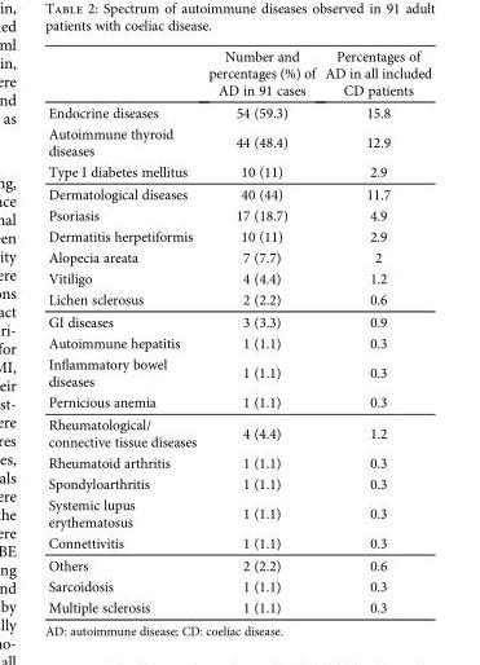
<table><thead><tr><td></td><td>Number and percentages (%) of AD in 91 cases</td><td>Percentages of AD in all included CD patients</td></tr></thead><tbody><tr><td>Endocrine diseases</td><td>54 (59.3)</td><td>15.8</td></tr><tr><td>Autoimmune thyroid diseases</td><td>44 (48.4)</td><td>12.9</td></tr><tr><td>Type I diabetes mellitus</td><td>10 (11)</td><td>2.9</td></tr><tr><td>Dermatological diseases</td><td>40 (44)</td><td>11.7</td></tr><tr><td>Psoriasis</td><td>17 (18.7)</td><td>4.9</td></tr><tr><td>Dermatitis herpetiformis</td><td>10 (11)</td><td>2.9</td></tr><tr><td>Alopecia areata</td><td>7 (7.7)</td><td>2</td></tr><tr><td>Vitiligo</td><td>4 (4.4)</td><td>1.2</td></tr><tr><td>Lichen sclerosus</td><td>2 (2.2)</td><td>0.6</td></tr><tr><td>GI diseases</td><td>3 (3.3)</td><td>0.9</td></tr><tr><td>Autoimmune hepatitis</td><td>1 (1.1)</td><td>0.3</td></tr><tr><td>Inflammatory bowel diseases</td><td>1 (1.1)</td><td>0.3</td></tr><tr><td>Pernicious anemia</td><td>1 (1.1)</td><td>0.3</td></tr><tr><td>Rheumatological/ connective tissue diseases</td><td>4 (4.4)</td><td>1.2</td></tr><tr><td>Rheumatoid arthritis</td><td>1 (1.1)</td><td>0.3</td></tr><tr><td>Spondyloarthritis</td><td>1 (1.1)</td><td>0.3</td></tr><tr><td>Systemic lupus erythematosus</td><td>1 (1.1)</td><td>0.3</td></tr><tr><td>Connettivitis</td><td>1 (1.1)</td><td>0.3</td></tr><tr><td>Others</td><td>2 (2.2)</td><td>0.6</td></tr><tr><td>Sarcoidosis</td><td>1 (1.1)</td><td>0.3</td></tr><tr><td>Multiple sclerosis</td><td>1 (1.1)</td><td>0.3</td></tr></tbody></table>